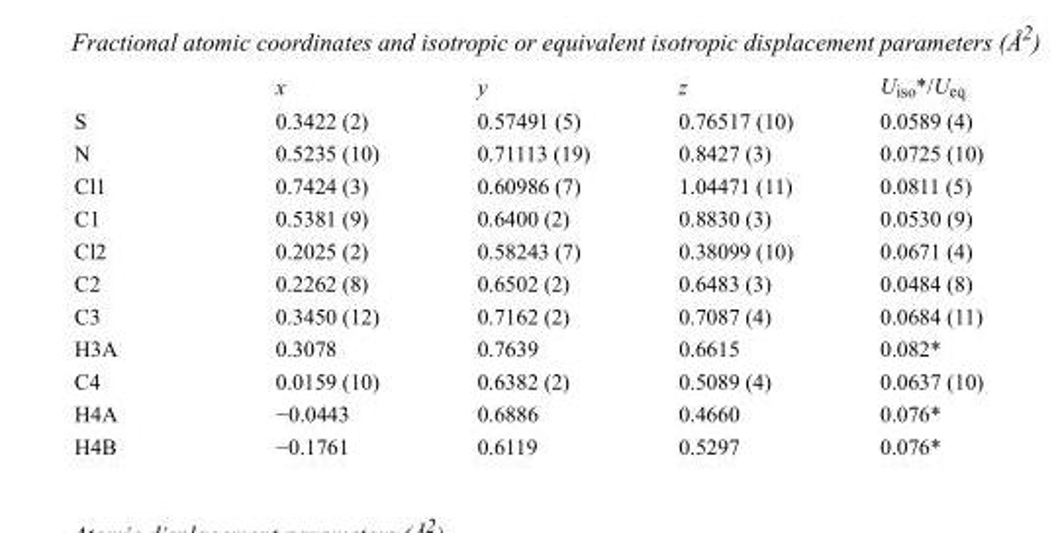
<table><thead><tr><td></td><td>x</td><td>y</td><td>z</td><td>U<sub>iso</sub>*/U<sub>eq</sub></td></tr></thead><tbody><tr><td>S</td><td>0.3422 (2)</td><td>0.57491 (5)</td><td>0.76517 (10)</td><td>0.0589 (4)</td></tr><tr><td>N</td><td>0.5235 (10)</td><td>0.71113 (19)</td><td>0.8427 (3)</td><td>0.0725 (10)</td></tr><tr><td>Cl1</td><td>0.7424 (3)</td><td>0.60986 (7)</td><td>1.04471 (11)</td><td>0.0811 (5)</td></tr><tr><td>C1</td><td>0.5381 (9)</td><td>0.6400 (2)</td><td>0.8830 (3)</td><td>0.0530 (9)</td></tr><tr><td>Cl2</td><td>0.2025 (2)</td><td>0.58243 (7)</td><td>0.38099 (10)</td><td>0.0671 (4)</td></tr><tr><td>C2</td><td>0.2262 (8)</td><td>0.6502 (2)</td><td>0.6483 (3)</td><td>0.0484 (8)</td></tr><tr><td>C3</td><td>0.3450 (12)</td><td>0.7162 (2)</td><td>0.7087 (4)</td><td>0.0684 (11)</td></tr><tr><td>H3A</td><td>0.3078</td><td>0.7639</td><td>0.6615</td><td>0.082*</td></tr><tr><td>C4</td><td>0.0159 (10)</td><td>0.6382 (2)</td><td>0.5089 (4)</td><td>0.0637 (10)</td></tr><tr><td>H4A</td><td>−0.0443</td><td>0.6886</td><td>0.4660</td><td>0.076*</td></tr><tr><td>H4B</td><td>−0.1761</td><td>0.6119</td><td>0.5297</td><td>0.076*</td></tr></tbody></table>